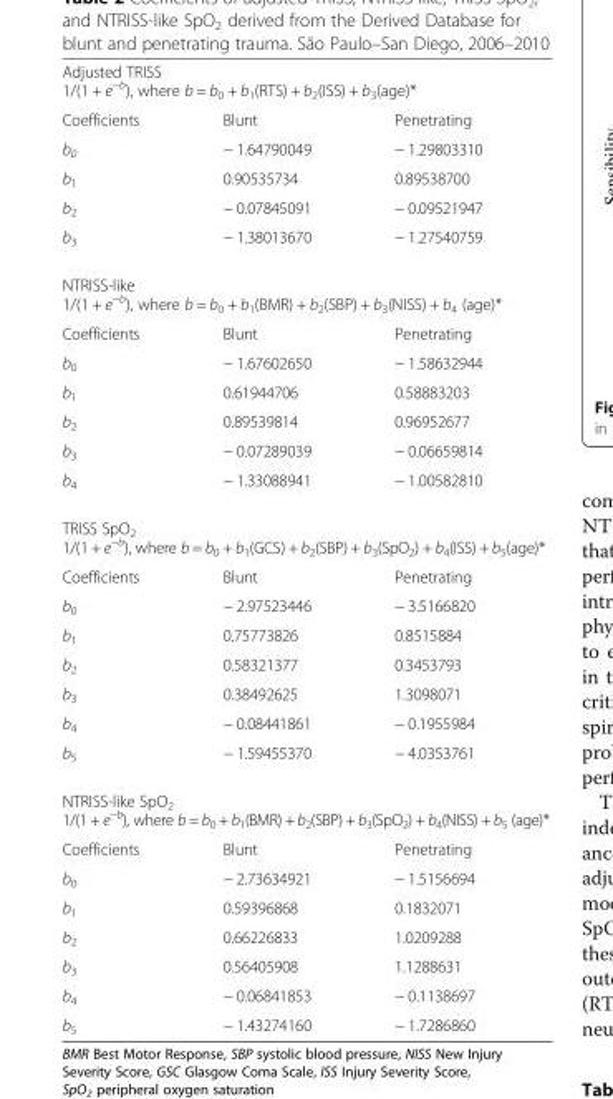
<table><tbody><tr><td colspan="3">Adjusted TRISS 1/(1 + e<sup>−b</sup>), where b = b<sub>0</sub> + b<sub>1</sub>(RTS) + b<sub>2</sub>(ISS) + b<sub>3</sub>(age)*</td></tr><tr><td>Coefficients</td><td>Blunt</td><td>Penetrating</td></tr><tr><td>b<sub>0</sub></td><td>− 1.64790049</td><td>− 1.29803310</td></tr><tr><td>b<sub>1</sub></td><td>0.90535734</td><td>0.89538700</td></tr><tr><td>b<sub>2</sub></td><td>− 0.07845091</td><td>− 0.09521947</td></tr><tr><td>b<sub>3</sub></td><td>− 1.38013670</td><td>− 1.27540759</td></tr><tr><td colspan="3">NTRISS-like 1/(1 + e<sup>−b</sup>), where b = b<sub>0</sub> + b<sub>1</sub>(BMR) + b<sub>2</sub>(SBP) + b<sub>3</sub>(NISS) + b<sub>4</sub> (age)*</td></tr><tr><td>Coefficients</td><td>Blunt</td><td>Penetrating</td></tr><tr><td>b<sub>0</sub></td><td>− 1.67602650</td><td>− 1.58632944</td></tr><tr><td>b<sub>1</sub></td><td>0.61944706</td><td>0.58883203</td></tr><tr><td>b<sub>2</sub></td><td>0.89539814</td><td>0.96952677</td></tr><tr><td>b<sub>3</sub></td><td>− 0.07289039</td><td>− 0.06659814</td></tr><tr><td>b<sub>4</sub></td><td>− 1.33088941</td><td>− 1.00582810</td></tr><tr><td colspan="3">TRISS SpO<sub>2</sub> 1/(1 + e<sup>−b</sup>), where b = b<sub>0</sub> + b<sub>1</sub>(GCS) + b<sub>2</sub>(SBP) + b<sub>3</sub>(SpO<sub>2</sub>) + b<sub>4</sub>(ISS) + b<sub>5</sub>(age)*</td></tr><tr><td>Coefficients</td><td>Blunt</td><td>Penetrating</td></tr><tr><td>b<sub>0</sub></td><td>− 2.97523446</td><td>− 3.5166820</td></tr><tr><td>b<sub>1</sub></td><td>0.75773826</td><td>0.8515884</td></tr><tr><td>b<sub>2</sub></td><td>0.58321377</td><td>0.3453793</td></tr><tr><td>b<sub>3</sub></td><td>0.38492625</td><td>1.3098071</td></tr><tr><td>b<sub>4</sub></td><td>− 0.08441861</td><td>− 0.1955984</td></tr><tr><td>b<sub>5</sub></td><td>− 1.59455370</td><td>− 4.0353761</td></tr><tr><td colspan="3">NTRISS-like SpO<sub>2</sub> 1/(1 + e<sup>−b</sup>), where b = b<sub>0</sub> + b<sub>1</sub>(BMR) + b<sub>2</sub>(SBP) + b<sub>3</sub>(SpO<sub>2</sub>) + b<sub>4</sub>(NISS) + b<sub>5</sub> (age)*</td></tr><tr><td>Coefficients</td><td>Blunt</td><td>Penetrating</td></tr><tr><td>b<sub>0</sub></td><td>− 2.73634921</td><td>− 1.5156694</td></tr><tr><td>b<sub>1</sub></td><td>0.59396868</td><td>0.1832071</td></tr><tr><td>b<sub>2</sub></td><td>0.66226833</td><td>1.0209288</td></tr><tr><td>b<sub>3</sub></td><td>0.56405908</td><td>1.1288631</td></tr><tr><td>b<sub>4</sub></td><td>− 0.06841853</td><td>− 0.1138697</td></tr><tr><td>b<sub>5</sub></td><td>− 1.43274160</td><td>− 1.7286860</td></tr></tbody></table>